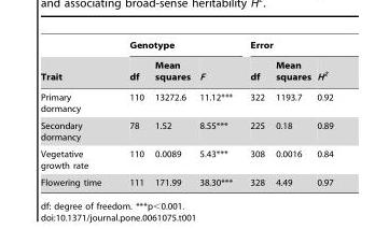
<table><thead><tr><td rowspan="2">Trait</td><td colspan="3">Genotype</td><td colspan="3">Error</td></tr><tr><td>df</td><td>Mean squares</td><td>F</td><td>df</td><td>Mean squares</td><td>H<sup>2</sup></td></tr></thead><tbody><tr><td>Primary dormancy</td><td>110</td><td>13272.6</td><td>11.12***</td><td>322</td><td>1193.7</td><td>0.92</td></tr><tr><td>Secondary dormancy</td><td>78</td><td>1.52</td><td>8.55***</td><td>225</td><td>0.18</td><td>0.89</td></tr><tr><td>Vegetative growth rate</td><td>110</td><td>0.0089</td><td>5.43***</td><td>308</td><td>0.0016</td><td>0.84</td></tr><tr><td>Flowering time</td><td>111</td><td>171.99</td><td>38.30***</td><td>328</td><td>4.49</td><td>0.97</td></tr></tbody></table>